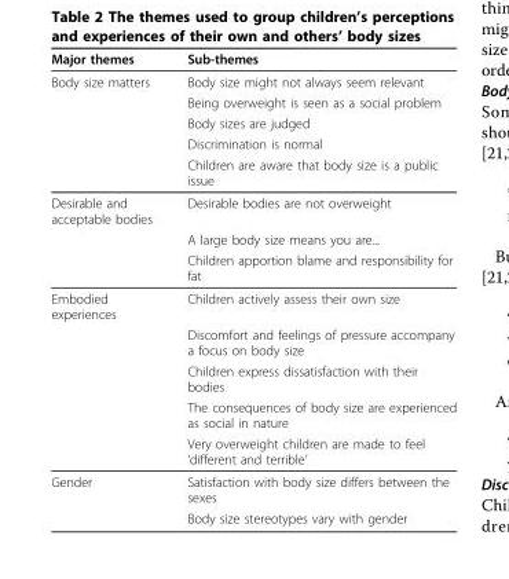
<table><thead><tr><td>Major themes</td><td>Sub-themes</td></tr></thead><tbody><tr><td rowspan="5">Body size matters</td><td>Body size might not always seem relevant</td></tr><tr><td>Being overweight is seen as a social problem</td></tr><tr><td>Body sizes are judged</td></tr><tr><td>Discrimination is normal</td></tr><tr><td>Children are aware that body size is a public issue</td></tr><tr><td rowspan="3">Desirable and acceptable bodies</td><td>Desirable bodies are not overweight</td></tr><tr><td>A large body size means you are...</td></tr><tr><td>Children apportion blame and responsibility for fat</td></tr><tr><td rowspan="5">Embodied experiences</td><td>Children actively assess their own size</td></tr><tr><td>Discomfort and feelings of pressure accompany a focus on body size</td></tr><tr><td>Children express dissatisfaction with their bodies</td></tr><tr><td>The consequences of body size are experienced as social in nature</td></tr><tr><td>Very overweight children are made to feel ‘different and terrible’</td></tr><tr><td rowspan="2">Gender</td><td>Satisfaction with body size differs between the sexes</td></tr><tr><td>Body size stereotypes vary with gender</td></tr></tbody></table>